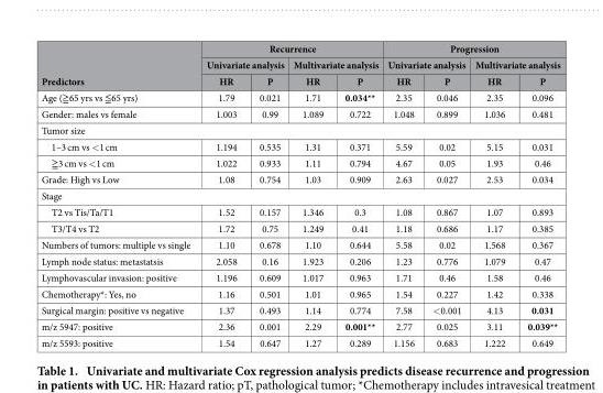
<table><thead><tr><td rowspan="3">Predictors</td><td colspan="4">Recurrence</td><td colspan="4">Progression</td></tr><tr><td colspan="2">Univariate analysis</td><td colspan="2">Multivariate analysis</td><td colspan="2">Univariate analysis</td><td colspan="2">Multivariate analysis</td></tr><tr><td>HR</td><td>P</td><td>HR</td><td>P</td><td>HR</td><td>P</td><td>HR</td><td>P</td></tr></thead><tbody><tr><td>Age (≧ 65 yrs vs ≦ 65 yrs)</td><td>1.79</td><td>0.021</td><td>1.71</td><td>0.034**</td><td>2.35</td><td>0.046</td><td>2.35</td><td>0.096</td></tr><tr><td>Gender: males vs female</td><td>1.003</td><td>0.99</td><td>1.089</td><td>0.722</td><td>1.048</td><td>0.899</td><td>1.036</td><td>0.481</td></tr><tr><td colspan="9">Tumor size</td></tr><tr><td>1–3 cm vs &lt; 1 cm</td><td>1.194</td><td>0.535</td><td>1.31</td><td>0.371</td><td>5.59</td><td>0.02</td><td>5.15</td><td>0.031</td></tr><tr><td>≧ 3 cm vs &lt; 1 cm</td><td>1.022</td><td>0.933</td><td>1.11</td><td>0.794</td><td>4.67</td><td>0.05</td><td>1.93</td><td>0.46</td></tr><tr><td>Grade: High vs Low</td><td>1.08</td><td>0.754</td><td>1.03</td><td>0.909</td><td>2.63</td><td>0.027</td><td>2.53</td><td>0.034</td></tr><tr><td colspan="9">Stage</td></tr><tr><td>T2 vs Tis/Ta/T1</td><td>1.52</td><td>0.157</td><td>1.346</td><td>0.3</td><td>1.08</td><td>0.867</td><td>1.07</td><td>0.893</td></tr><tr><td>T3/T4 vs T2</td><td>1.72</td><td>0.75</td><td>1.249</td><td>0.41</td><td>1.18</td><td>0.686</td><td>1.17</td><td>0.385</td></tr><tr><td>Numbers of tumors: multiple vs single</td><td>1.10</td><td>0.678</td><td>1.10</td><td>0.644</td><td>5.58</td><td>0.02</td><td>1.568</td><td>0.367</td></tr><tr><td>Lymph node status: metastatsis</td><td>2.058</td><td>0.16</td><td>1.923</td><td>0.206</td><td>1.23</td><td>0.776</td><td>1.079</td><td>0.47</td></tr><tr><td>Lymphovascular invasion: positive</td><td>1.196</td><td>0.609</td><td>1.017</td><td>0.963</td><td>1.71</td><td>0.46</td><td>1.58</td><td>0.46</td></tr><tr><td>Chemotherapy*: Yes, no</td><td>1.16</td><td>0.501</td><td>1.01</td><td>0.965</td><td>1.54</td><td>0.227</td><td>1.42</td><td>0.338</td></tr><tr><td>Surgical margin: positive vs negative</td><td>1.37</td><td>0.493</td><td>1.14</td><td>0.774</td><td>7.58</td><td>&lt; 0.001</td><td>4.13</td><td>0.031</td></tr><tr><td>m/z 5947: positive</td><td>2.36</td><td>0.001</td><td>2.29</td><td>0.001**</td><td>2.77</td><td>0.025</td><td>3.11</td><td>0.039**</td></tr><tr><td>m/z 5593: positive</td><td>1.54</td><td>0.647</td><td>1.27</td><td>0.289</td><td>1.156</td><td>0.683</td><td>1.222</td><td>0.649</td></tr></tbody></table>